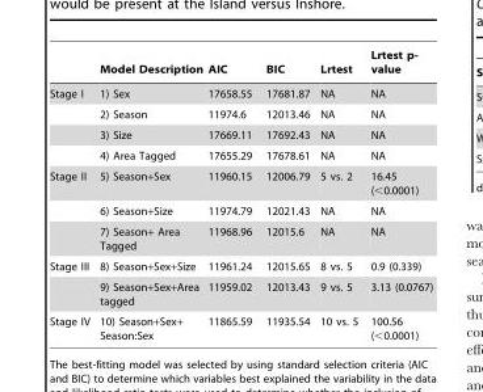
<table><thead><tr><td></td><td>Model Description</td><td>AIC</td><td>BIC</td><td>Lrtest</td><td>Lrtest p- value</td></tr></thead><tbody><tr><td rowspan="4">Stage I</td><td>1) Sex</td><td>17658.55</td><td>17681.87</td><td>NA</td><td>NA</td></tr><tr><td>2) Season</td><td>11974.6</td><td>12013.46</td><td>NA</td><td>NA</td></tr><tr><td>3) Size</td><td>17669.11</td><td>17692.43</td><td>NA</td><td>NA</td></tr><tr><td>4) Area Tagged</td><td>17655.29</td><td>17678.61</td><td>NA</td><td>NA</td></tr><tr><td rowspan="3">Stage II</td><td>5) Season+Sex</td><td>11960.15</td><td>12006.79</td><td>5 vs. 2</td><td>16.45 (&lt;0.0001)</td></tr><tr><td>6) Season+Size</td><td>11974.79</td><td>12021.43</td><td>NA</td><td>NA</td></tr><tr><td>7) Season+ Area Tagged</td><td>11968.96</td><td>12015.6</td><td>NA</td><td>NA</td></tr><tr><td rowspan="2">Stage III</td><td>8) Season+Sex+Size</td><td>11961.24</td><td>12015.65</td><td>8 vs. 5</td><td>0.9 (0.339)</td></tr><tr><td>9) Season+Sex+Area tagged</td><td>11959.02</td><td>12013.43</td><td>9 vs. 5</td><td>3.13 (0.0767)</td></tr><tr><td>Stage IV</td><td>10) Season+Sex+ Season:Sex</td><td>11865.59</td><td>11935.54</td><td>10 vs. 5</td><td>100.56 (&lt;0.0001)</td></tr></tbody></table>